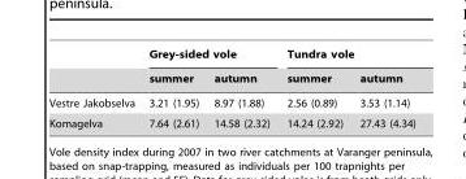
<table><thead><tr><td rowspan="2"></td><td colspan="2">Grey-sided vole</td><td colspan="2">Tundra vole</td></tr><tr><td>summer</td><td>autumn</td><td>summer</td><td>autumn</td></tr></thead><tbody><tr><td>Vestre Jakobselva</td><td>3.21 (1.95)</td><td>8.97 (1.88)</td><td>2.56 (0.89)</td><td>3.53 (1.14)</td></tr><tr><td>Komagelva</td><td>7.64 (2.61)</td><td>14.58 (2.32)</td><td>14.24 (2.92)</td><td>27.43 (4.34)</td></tr></tbody></table>